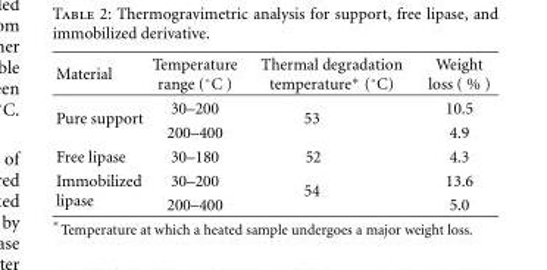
<table><thead><tr><td>Material</td><td>Temperature range (◦C )</td><td>Thermal degradation temperature∗ (◦C)</td><td>Weight loss ( % )</td></tr></thead><tbody><tr><td rowspan="2">Pure support</td><td>30–200</td><td rowspan="2">53</td><td>10.5</td></tr><tr><td>200–400</td><td>4.9</td></tr><tr><td>Free lipase</td><td>30–180</td><td>52</td><td>4.3</td></tr><tr><td rowspan="2">Immobilized lipase</td><td>30–200</td><td rowspan="2">54</td><td>13.6</td></tr><tr><td>200–400</td><td>5.0</td></tr></tbody></table>